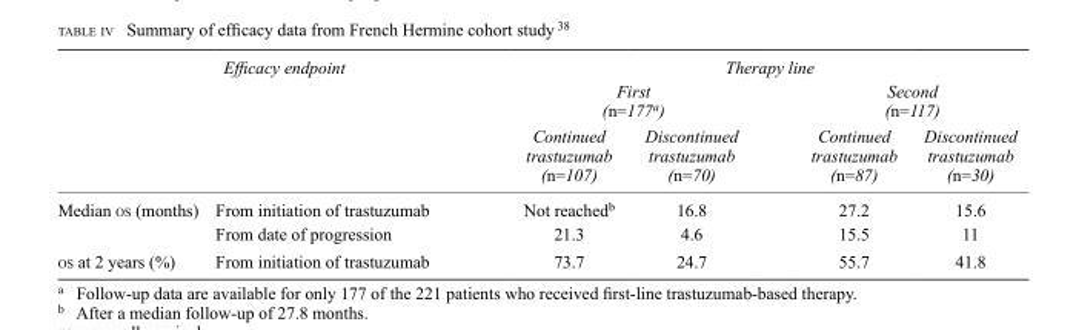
<table><thead><tr><td rowspan="3"></td><td rowspan="3">Efficacy endpoint</td><td colspan="4">Therapy line</td></tr><tr><td colspan="2">First (n=177<sup>a</sup>)</td><td colspan="2">Second (n=117)</td></tr><tr><td>Continued trastuzumab (n=107)</td><td>Discontinued trastuzumab (n=70)</td><td>Continued trastuzumab (n=87)</td><td>Discontinued trastuzumab (n=30)</td></tr></thead><tbody><tr><td rowspan="2">Median os (months)</td><td>From initiation of trastuzumab</td><td>Not reached<sup>b</sup></td><td>16.8</td><td>27.2</td><td>15.6</td></tr><tr><td>From date of progression</td><td>21.3</td><td>4.6</td><td>15.5</td><td>11</td></tr><tr><td>os at 2 years (%)</td><td>From initiation of trastuzumab</td><td>73.7</td><td>24.7</td><td>55.7</td><td>41.8</td></tr></tbody></table>